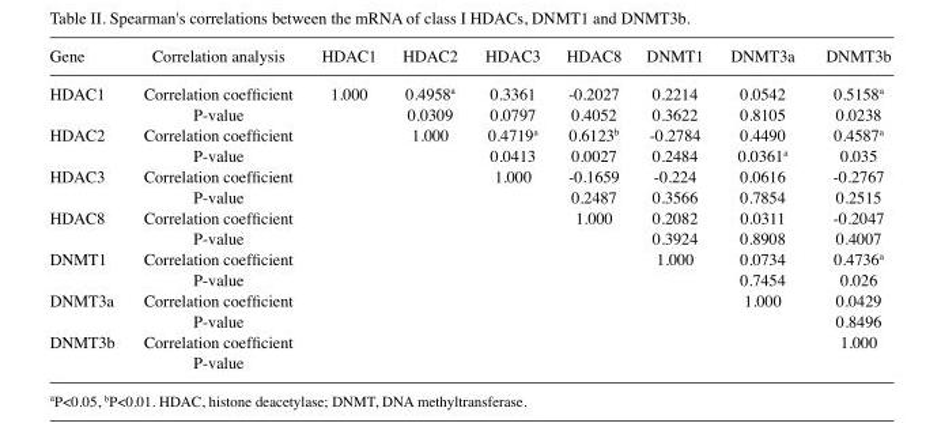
<table><thead><tr><td>Gene</td><td>Correlation analysis</td><td>HDAC1</td><td>HDAC2</td><td>HDAC3</td><td>HDAC8</td><td>DNMT1</td><td>DNMT3a</td><td>DNMT3b</td></tr></thead><tbody><tr><td rowspan="2">HDAC1</td><td>Correlation coefficient</td><td>1.000</td><td>0.4958<sup>a</sup></td><td>0.3361</td><td>-0.2027</td><td>0.2214</td><td>0.0542</td><td>0.5158<sup>a</sup></td></tr><tr><td>P-value</td><td></td><td>0.0309</td><td>0.0797</td><td>0.4052</td><td>0.3622</td><td>0.8105</td><td>0.0238</td></tr><tr><td rowspan="2">HDAC2</td><td>Correlation coefficient</td><td></td><td>1.000</td><td>0.4719<sup>a</sup></td><td>0.6123<sup>b</sup></td><td>-0.2784</td><td>0.4490</td><td>0.4587<sup>a</sup></td></tr><tr><td>P-value</td><td></td><td></td><td>0.0413</td><td>0.0027</td><td>0.2484</td><td>0.0361<sup>a</sup></td><td>0.035</td></tr><tr><td rowspan="2">HDAC3</td><td>Correlation coefficient</td><td></td><td></td><td>1.000</td><td>-0.1659</td><td>-0.224</td><td>0.0616</td><td>-0.2767</td></tr><tr><td>P-value</td><td></td><td></td><td></td><td>0.2487</td><td>0.3566</td><td>0.7854</td><td>0.2515</td></tr><tr><td rowspan="2">HDAC8</td><td>Correlation coefficient</td><td></td><td></td><td></td><td>1.000</td><td>0.2082</td><td>0.0311</td><td>-0.2047</td></tr><tr><td>P-value</td><td></td><td></td><td></td><td></td><td>0.3924</td><td>0.8908</td><td>0.4007</td></tr><tr><td rowspan="2">DNMT1</td><td>Correlation coefficient</td><td></td><td></td><td></td><td></td><td>1.000</td><td>0.0734</td><td>0.4736<sup>a</sup></td></tr><tr><td>P-value</td><td></td><td></td><td></td><td></td><td></td><td>0.7454</td><td>0.026</td></tr><tr><td rowspan="2">DNMT3a</td><td>Correlation coefficient</td><td></td><td></td><td></td><td></td><td></td><td>1.000</td><td>0.0429</td></tr><tr><td>P-value</td><td></td><td></td><td></td><td></td><td></td><td></td><td>0.8496</td></tr><tr><td rowspan="2">DNMT3b</td><td>Correlation coefficient</td><td></td><td></td><td></td><td></td><td></td><td></td><td>1.000</td></tr><tr><td>P-value</td><td></td><td></td><td></td><td></td><td></td><td></td><td></td></tr></tbody></table>